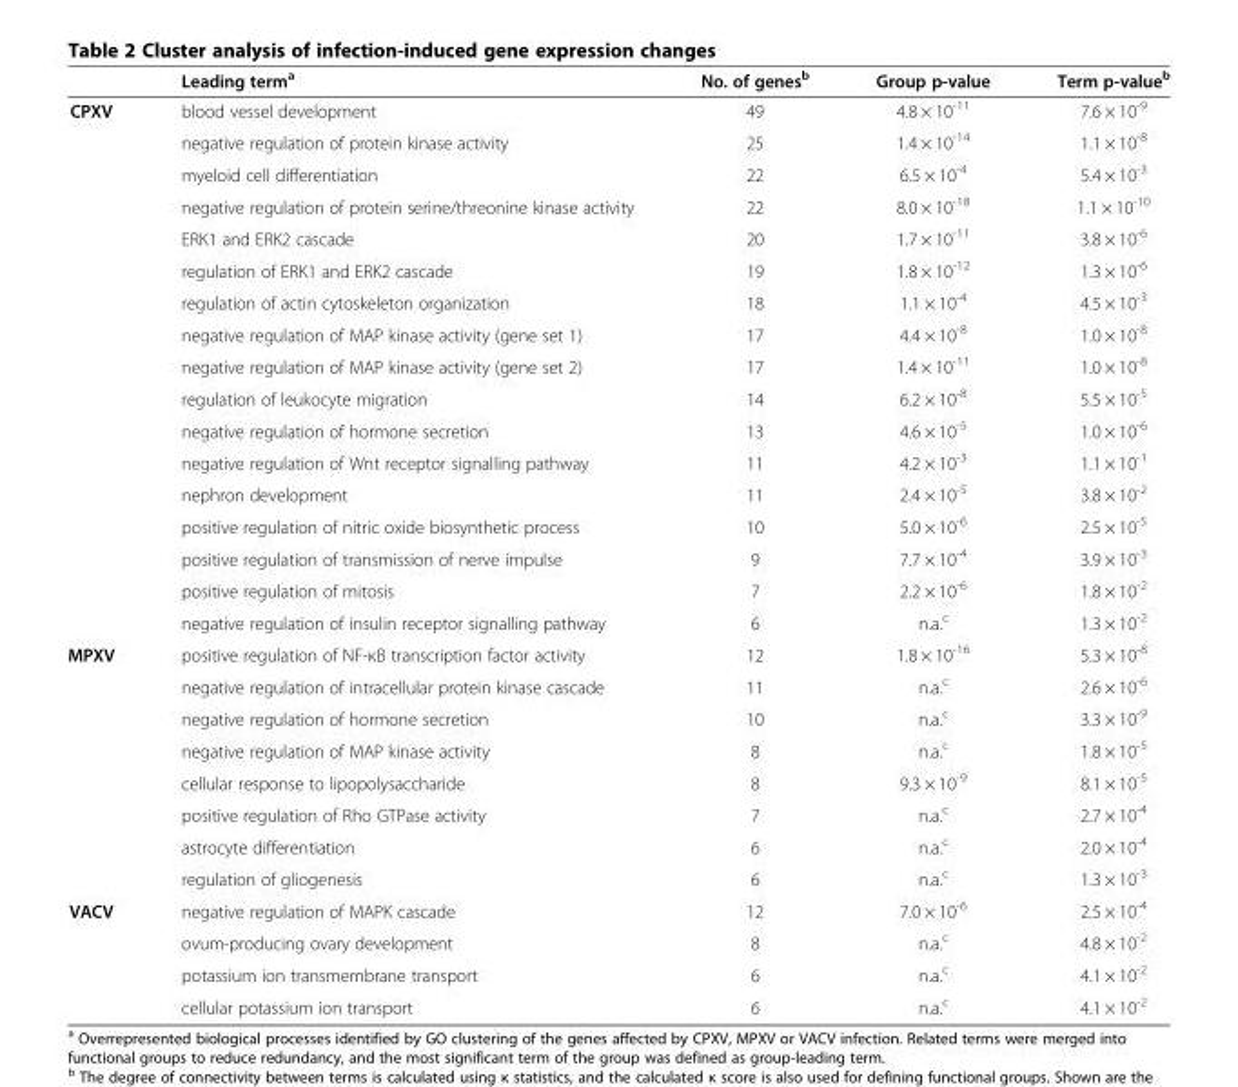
<table><thead><tr><td></td><td>Leading term<sup>a</sup></td><td>No. of genes<sup>b</sup></td><td>Group p-value</td><td>Term p-value<sup>b</sup></td></tr></thead><tbody><tr><td rowspan="17">CPXV</td><td>blood vessel development</td><td>49</td><td>4.8 × 10<sup>-11</sup></td><td>7.6 × 10<sup>-9</sup></td></tr><tr><td>negative regulation of protein kinase activity</td><td>25</td><td>1.4 × 10<sup>-14</sup></td><td>1.1 × 10<sup>-8</sup></td></tr><tr><td>myeloid cell differentiation</td><td>22</td><td>6.5 × 10<sup>-4</sup></td><td>5.4 × 10<sup>-3</sup></td></tr><tr><td>negative regulation of protein serine/threonine kinase activity</td><td>22</td><td>8.0 × 10<sup>-18</sup></td><td>1.1 × 10<sup>-10</sup></td></tr><tr><td>ERK1 and ERK2 cascade</td><td>20</td><td>1.7 × 10<sup>-11</sup></td><td>3.8 × 10<sup>-6</sup></td></tr><tr><td>regulation of ERK1 and ERK2 cascade</td><td>19</td><td>1.8 × 10<sup>-12</sup></td><td>1.3 × 10<sup>-6</sup></td></tr><tr><td>regulation of actin cytoskeleton organization</td><td>18</td><td>1.1 × 10<sup>-4</sup></td><td>4.5 × 10<sup>-3</sup></td></tr><tr><td>negative regulation of MAP kinase activity (gene set 1)</td><td>17</td><td>4.4 × 10<sup>-8</sup></td><td>1.0 × 10<sup>-8</sup></td></tr><tr><td>negative regulation of MAP kinase activity (gene set 2)</td><td>17</td><td>1.4 × 10<sup>-11</sup></td><td>1.0 × 10<sup>-8</sup></td></tr><tr><td>regulation of leukocyte migration</td><td>14</td><td>6.2 × 10<sup>-8</sup></td><td>5.5 × 10<sup>-5</sup></td></tr><tr><td>negative regulation of hormone secretion</td><td>13</td><td>4.6 × 10<sup>-5</sup></td><td>1.0 × 10<sup>-6</sup></td></tr><tr><td>negative regulation of Wnt receptor signalling pathway</td><td>11</td><td>4.2 × 10<sup>-3</sup></td><td>1.1 × 10<sup>-1</sup></td></tr><tr><td>nephron development</td><td>11</td><td>2.4 × 10<sup>-5</sup></td><td>3.8 × 10<sup>-2</sup></td></tr><tr><td>positive regulation of nitric oxide biosynthetic process</td><td>10</td><td>5.0 × 10<sup>-6</sup></td><td>2.5 × 10<sup>-5</sup></td></tr><tr><td>positive regulation of transmission of nerve impulse</td><td>9</td><td>7.7 × 10<sup>-4</sup></td><td>3.9 × 10<sup>-3</sup></td></tr><tr><td>positive regulation of mitosis</td><td>7</td><td>2.2 × 10<sup>-6</sup></td><td>1.8 × 10<sup>-2</sup></td></tr><tr><td>negative regulation of insulin receptor signalling pathway</td><td>6</td><td>n.a.<sup>c</sup></td><td>1.3 × 10<sup>-2</sup></td></tr><tr><td rowspan="8">MPXV</td><td>positive regulation of NF-κB transcription factor activity</td><td>12</td><td>1.8 × 10<sup>-16</sup></td><td>5.3 × 10<sup>-8</sup></td></tr><tr><td>negative regulation of intracellular protein kinase cascade</td><td>11</td><td>n.a.<sup>c</sup></td><td>2.6 × 10<sup>-6</sup></td></tr><tr><td>negative regulation of hormone secretion</td><td>10</td><td>n.a.<sup>c</sup></td><td>3.3 × 10<sup>-9</sup></td></tr><tr><td>negative regulation of MAP kinase activity</td><td>8</td><td>n.a.<sup>c</sup></td><td>1.8 × 10<sup>-5</sup></td></tr><tr><td>cellular response to lipopolysaccharide</td><td>8</td><td>9.3 × 10<sup>-9</sup></td><td>8.1 × 10<sup>-5</sup></td></tr><tr><td>positive regulation of Rho GTPase activity</td><td>7</td><td>n.a.<sup>c</sup></td><td>2.7 × 10<sup>-4</sup></td></tr><tr><td>astrocyte differentiation</td><td>6</td><td>n.a.<sup>c</sup></td><td>2.0 × 10<sup>-4</sup></td></tr><tr><td>regulation of gliogenesis</td><td>6</td><td>n.a.<sup>c</sup></td><td>1.3 × 10<sup>-3</sup></td></tr><tr><td rowspan="4">VACV</td><td>negative regulation of MAPK cascade</td><td>12</td><td>7.0 × 10<sup>-6</sup></td><td>2.5 × 10<sup>-4</sup></td></tr><tr><td>ovum-producing ovary development</td><td>8</td><td>n.a.<sup>c</sup></td><td>4.8 × 10<sup>-2</sup></td></tr><tr><td>potassium ion transmembrane transport</td><td>6</td><td>n.a.<sup>c</sup></td><td>4.1 × 10<sup>-2</sup></td></tr><tr><td>cellular potassium ion transport</td><td>6</td><td>n.a.<sup>c</sup></td><td>4.1 × 10<sup>-2</sup></td></tr></tbody></table>